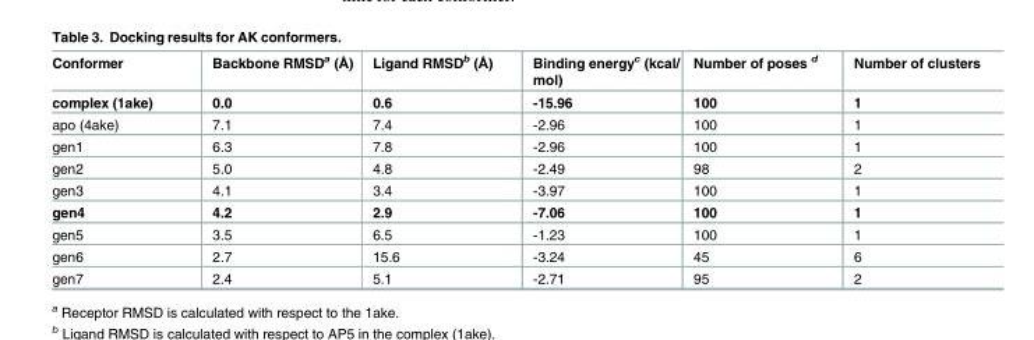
<table><thead><tr><td>Conformer</td><td>Backbone RMSD<sup>a</sup> (Å)</td><td>Ligand RMSD<sup>b</sup> (Å)</td><td>Binding energy<sup>c</sup> (kcal/ mol)</td><td>Number of poses <sup>d</sup></td><td>Number of clusters</td></tr></thead><tbody><tr><td>complex (1ake)</td><td>0.0</td><td>0.6</td><td>-15.96</td><td>100</td><td>1</td></tr><tr><td>apo (4ake)</td><td>7.1</td><td>7.4</td><td>-2.96</td><td>100</td><td>1</td></tr><tr><td>gen1</td><td>6.3</td><td>7.8</td><td>-2.96</td><td>100</td><td>1</td></tr><tr><td>gen2</td><td>5.0</td><td>4.8</td><td>-2.49</td><td>98</td><td>2</td></tr><tr><td>gen3</td><td>4.1</td><td>3.4</td><td>-3.97</td><td>100</td><td>1</td></tr><tr><td>gen4</td><td>4.2</td><td>2.9</td><td>-7.06</td><td>100</td><td>1</td></tr><tr><td>gen5</td><td>3.5</td><td>6.5</td><td>-1.23</td><td>100</td><td>1</td></tr><tr><td>gen6</td><td>2.7</td><td>15.6</td><td>-3.24</td><td>45</td><td>6</td></tr><tr><td>gen7</td><td>2.4</td><td>5.1</td><td>-2.71</td><td>95</td><td>2</td></tr></tbody></table>